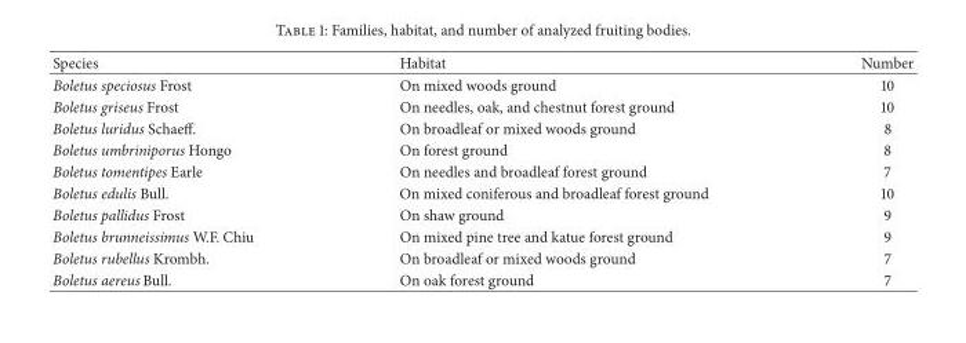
<table><thead><tr><td>Species</td><td>Habitat</td><td>Number</td></tr></thead><tbody><tr><td>Boletus speciosus Frost</td><td>On mixed woods ground</td><td>10</td></tr><tr><td>Boletus griseus Frost</td><td>On needles, oak, and chestnut forest ground</td><td>10</td></tr><tr><td>Boletus luridus Schaeff.</td><td>On broadleaf or mixed woods ground</td><td>8</td></tr><tr><td>Boletus umbriniporus Hongo</td><td>On forest ground</td><td>8</td></tr><tr><td>Boletus tomentipes Earle</td><td>On needles and broadleaf forest ground</td><td>7</td></tr><tr><td>Boletus edulis Bull.</td><td>On mixed coniferous and broadleaf forest ground</td><td>10</td></tr><tr><td>Boletus pallidus Frost</td><td>On shaw ground</td><td>9</td></tr><tr><td>Boletus brunneissimus W.F. Chiu</td><td>On mixed pine tree and katue forest ground</td><td>9</td></tr><tr><td>Boletus rubellus Krombh.</td><td>On broadleaf or mixed woods ground</td><td>7</td></tr><tr><td>Boletus aereus Bull.</td><td>On oak forest ground</td><td>7</td></tr></tbody></table>